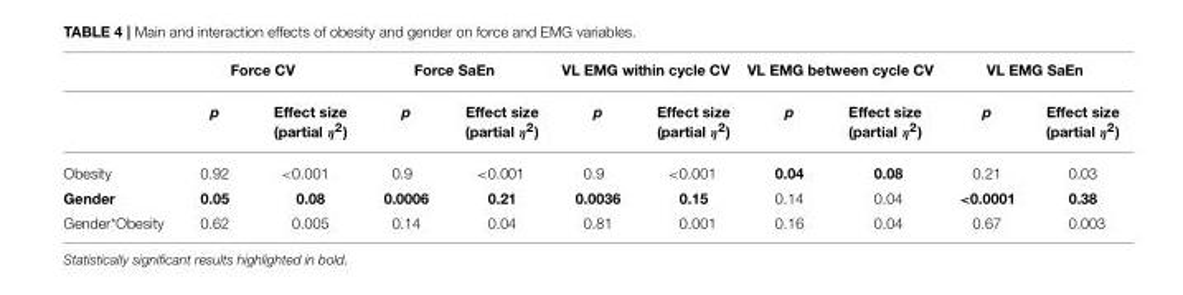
<table><thead><tr><td rowspan="2"></td><td colspan="2">Force CV</td><td colspan="2">Force SaEn</td><td colspan="2">VL EMG within cycle CV</td><td colspan="2">VL EMG between cycle CV</td><td colspan="2">VL EMG SaEn</td></tr><tr><td>p</td><td>Effect size (partial η<sup>2</sup>)</td><td>p</td><td>Effect size (partial η<sup>2</sup>)</td><td>p</td><td>Effect size (partial η<sup>2</sup>)</td><td>p</td><td>Effect size (partial η<sup>2</sup>)</td><td>p</td><td>Effect size (partial η<sup>2</sup>)</td></tr></thead><tbody><tr><td>Obesity</td><td>0.92</td><td>&lt;0.001</td><td>0.9</td><td>&lt;0.001</td><td>0.9</td><td>&lt;0.001</td><td>0.04</td><td>0.08</td><td>0.21</td><td>0.03</td></tr><tr><td>Gender</td><td>0.05</td><td>0.08</td><td>0.0006</td><td>0.21</td><td>0.0036</td><td>0.15</td><td>0.14</td><td>0.04</td><td>&lt;0.0001</td><td>0.38</td></tr><tr><td>Gender*Obesity</td><td>0.62</td><td>0.005</td><td>0.14</td><td>0.04</td><td>0.81</td><td>0.001</td><td>0.16</td><td>0.04</td><td>0.67</td><td>0.003</td></tr></tbody></table>